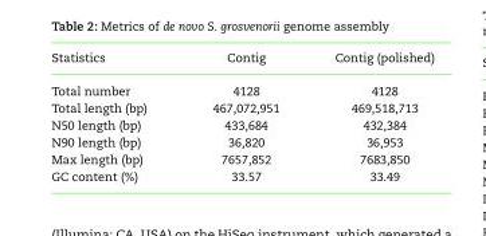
<table><thead><tr><td>Statistics</td><td>Contig</td><td>Contig (polished)</td></tr></thead><tbody><tr><td>Total number</td><td>4128</td><td>4128</td></tr><tr><td>Total length (bp)</td><td>467,072,951</td><td>469,518,713</td></tr><tr><td>N50 length (bp)</td><td>433,684</td><td>432,384</td></tr><tr><td>N90 length (bp)</td><td>36,820</td><td>36,953</td></tr><tr><td>Max length (bp)</td><td>7657,852</td><td>7683,850</td></tr><tr><td>GC content (%)</td><td>33.57</td><td>33.49</td></tr></tbody></table>